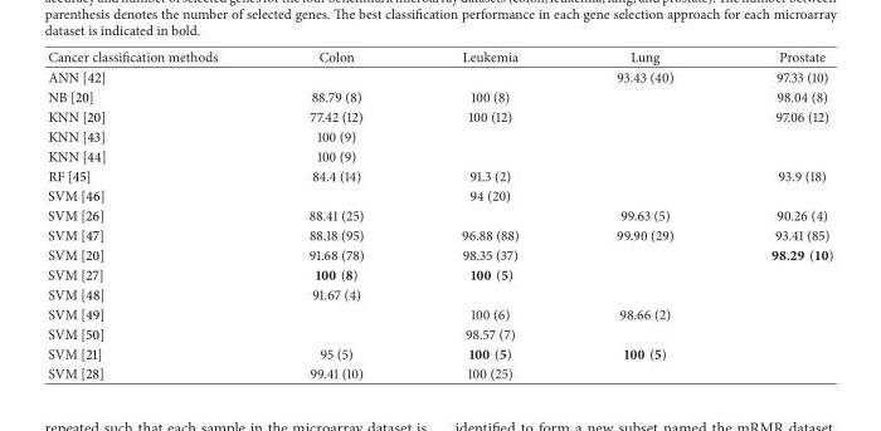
<table><thead><tr><td>Cancer classification methods</td><td>Colon</td><td>Leukemia</td><td>Lung</td><td>Prostate</td></tr></thead><tbody><tr><td>ANN [42]</td><td></td><td></td><td>93.43 (40)</td><td>97.33 (10)</td></tr><tr><td>NB [20]</td><td>88.79 (8)</td><td>100 (8)</td><td></td><td>98.04 (8)</td></tr><tr><td>KNN [20]</td><td>77.42 (12)</td><td>100 (12)</td><td></td><td>97.06 (12)</td></tr><tr><td>KNN [43]</td><td>100 (9)</td><td></td><td></td><td></td></tr><tr><td>KNN [44]</td><td>100 (9)</td><td></td><td></td><td></td></tr><tr><td>RF [45]</td><td>84.4 (14)</td><td>91.3 (2)</td><td></td><td>93.9 (18)</td></tr><tr><td>SVM [46]</td><td></td><td>94 (20)</td><td></td><td></td></tr><tr><td>SVM [26]</td><td>88.41 (25)</td><td></td><td>99.63 (5)</td><td>90.26 (4)</td></tr><tr><td>SVM [47]</td><td>88.18 (95)</td><td>96.88 (88)</td><td>99.90 (29)</td><td>93.41 (85)</td></tr><tr><td>SVM [20]</td><td>91.68 (78)</td><td>98.35 (37)</td><td></td><td>98.29 (10)</td></tr><tr><td>SVM [27]</td><td>100 (8)</td><td>100 (5)</td><td></td><td></td></tr><tr><td>SVM [48]</td><td>91.67 (4)</td><td></td><td></td><td></td></tr><tr><td>SVM [49]</td><td></td><td>100 (6)</td><td>98.66 (2)</td><td></td></tr><tr><td>SVM [50]</td><td></td><td>98.57 (7)</td><td></td><td></td></tr><tr><td>SVM [21]</td><td>95 (5)</td><td>100 (5)</td><td>100 (5)</td><td></td></tr><tr><td>SVM [28]</td><td>99.41 (10)</td><td>100 (25)</td><td></td><td></td></tr></tbody></table>